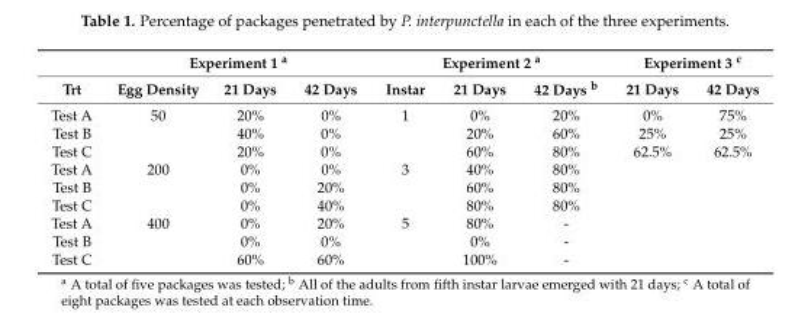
<table><thead><tr><td rowspan="2">Trt</td><td colspan="3">Experiment 1 <sup>a</sup></td><td colspan="3">Experiment 2 <sup>a</sup></td><td colspan="2">Experiment 3 <sup>c</sup></td></tr><tr><td>Egg Density</td><td>21 Days</td><td>42 Days</td><td>Instar</td><td>21 Days</td><td>42 Days <sup>b</sup></td><td>21 Days</td><td>42 Days</td></tr></thead><tbody><tr><td>Test A</td><td>50</td><td>20%</td><td>0%</td><td>1</td><td>0%</td><td>20%</td><td>0%</td><td>75%</td></tr><tr><td>Test B</td><td></td><td>40%</td><td>0%</td><td></td><td>20%</td><td>60%</td><td>25%</td><td>25%</td></tr><tr><td>Test C</td><td></td><td>20%</td><td>0%</td><td></td><td>60%</td><td>80%</td><td>62.5%</td><td>62.5%</td></tr><tr><td>Test A</td><td>200</td><td>0%</td><td>0%</td><td>3</td><td>40%</td><td>80%</td><td></td><td></td></tr><tr><td>Test B</td><td></td><td>0%</td><td>20%</td><td></td><td>60%</td><td>80%</td><td></td><td></td></tr><tr><td>Test C</td><td></td><td>0%</td><td>40%</td><td></td><td>80%</td><td>80%</td><td></td><td></td></tr><tr><td>Test A</td><td>400</td><td>0%</td><td>20%</td><td>5</td><td>80%</td><td>-</td><td></td><td></td></tr><tr><td>Test B</td><td></td><td>0%</td><td>0%</td><td></td><td>0%</td><td>-</td><td></td><td></td></tr><tr><td>Test C</td><td></td><td>60%</td><td>60%</td><td></td><td>100%</td><td>-</td><td></td><td></td></tr></tbody></table>